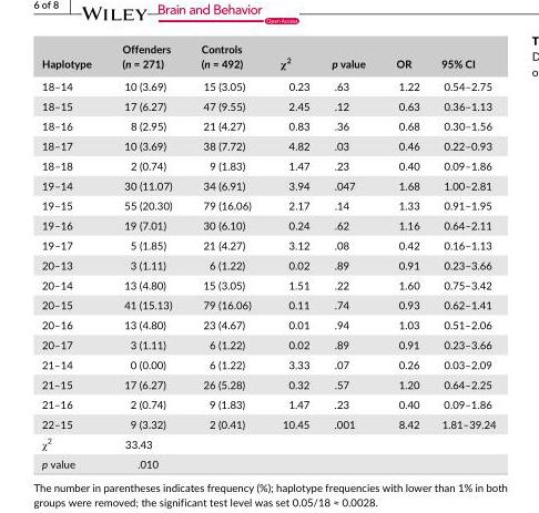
<table><thead><tr><td>Haplotype</td><td>Offenders (n = 271)</td><td>Controls (n = 492)</td><td>χ<sup>2</sup></td><td>p value</td><td>OR</td><td>95% CI</td></tr></thead><tbody><tr><td>18–14</td><td>10 (3.69)</td><td>15 (3.05)</td><td>0.23</td><td>.63</td><td>1.22</td><td>0.54–2.75</td></tr><tr><td>18–15</td><td>17 (6.27)</td><td>47 (9.55)</td><td>2.45</td><td>.12</td><td>0.63</td><td>0.36–1.13</td></tr><tr><td>18–16</td><td>8 (2.95)</td><td>21 (4.27)</td><td>0.83</td><td>.36</td><td>0.68</td><td>0.30–1.56</td></tr><tr><td>18–17</td><td>10 (3.69)</td><td>38 (7.72)</td><td>4.82</td><td>.03</td><td>0.46</td><td>0.22–0.93</td></tr><tr><td>18–18</td><td>2 (0.74)</td><td>9 (1.83)</td><td>1.47</td><td>.23</td><td>0.40</td><td>0.09–1.86</td></tr><tr><td>19–14</td><td>30 (11.07)</td><td>34 (6.91)</td><td>3.94</td><td>.047</td><td>1.68</td><td>1.00–2.81</td></tr><tr><td>19–15</td><td>55 (20.30)</td><td>79 (16.06)</td><td>2.17</td><td>.14</td><td>1.33</td><td>0.91–1.95</td></tr><tr><td>19–16</td><td>19 (7.01)</td><td>30 (6.10)</td><td>0.24</td><td>.62</td><td>1.16</td><td>0.64–2.11</td></tr><tr><td>19–17</td><td>5 (1.85)</td><td>21 (4.27)</td><td>3.12</td><td>.08</td><td>0.42</td><td>0.16–1.13</td></tr><tr><td>20–13</td><td>3 (1.11)</td><td>6 (1.22)</td><td>0.02</td><td>.89</td><td>0.91</td><td>0.23–3.66</td></tr><tr><td>20–14</td><td>13 (4.80)</td><td>15 (3.05)</td><td>1.51</td><td>.22</td><td>1.60</td><td>0.75–3.42</td></tr><tr><td>20–15</td><td>41 (15.13)</td><td>79 (16.06)</td><td>0.11</td><td>.74</td><td>0.93</td><td>0.62–1.41</td></tr><tr><td>20–16</td><td>13 (4.80)</td><td>23 (4.67)</td><td>0.01</td><td>.94</td><td>1.03</td><td>0.51–2.06</td></tr><tr><td>20–17</td><td>3 (1.11)</td><td>6 (1.22)</td><td>0.02</td><td>.89</td><td>0.91</td><td>0.23–3.66</td></tr><tr><td>21–14</td><td>0 (0.00)</td><td>6 (1.22)</td><td>3.33</td><td>.07</td><td>0.26</td><td>0.03–2.09</td></tr><tr><td>21–15</td><td>17 (6.27)</td><td>26 (5.28)</td><td>0.32</td><td>.57</td><td>1.20</td><td>0.64–2.25</td></tr><tr><td>21–16</td><td>2 (0.74)</td><td>9 (1.83)</td><td>1.47</td><td>.23</td><td>0.40</td><td>0.09–1.86</td></tr><tr><td>22–15</td><td>9 (3.32)</td><td>2 (0.41)</td><td>10.45</td><td>.001</td><td>8.42</td><td>1.81–39.24</td></tr><tr><td>χ<sup>2</sup></td><td colspan="6">33.43</td></tr><tr><td>p value</td><td colspan="6">.010</td></tr></tbody></table>